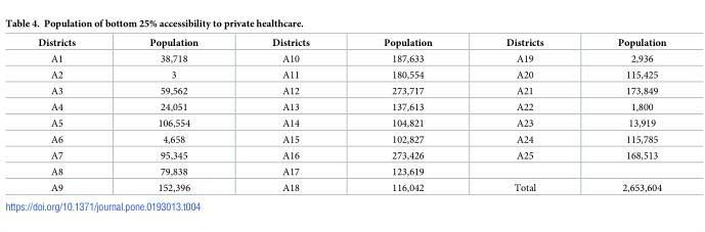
<table><thead><tr><td>Districts</td><td>Population</td><td>Districts</td><td>Population</td><td>Districts</td><td>Population</td></tr></thead><tbody><tr><td>A1</td><td>38,718</td><td>A10</td><td>187,633</td><td>A19</td><td>2,936</td></tr><tr><td>A2</td><td>3</td><td>A11</td><td>180,554</td><td>A20</td><td>115,425</td></tr><tr><td>A3</td><td>59,562</td><td>A12</td><td>273,717</td><td>A21</td><td>173,849</td></tr><tr><td>A4</td><td>24,051</td><td>A13</td><td>137,613</td><td>A22</td><td>1,800</td></tr><tr><td>A5</td><td>106,554</td><td>A14</td><td>104,821</td><td>A23</td><td>13,919</td></tr><tr><td>A6</td><td>4,658</td><td>A15</td><td>102,827</td><td>A24</td><td>115,785</td></tr><tr><td>A7</td><td>95,345</td><td>A16</td><td>273,426</td><td>A25</td><td>168,513</td></tr><tr><td>A8</td><td>79,838</td><td>A17</td><td>123,619</td><td></td><td></td></tr><tr><td>A9</td><td>152,396</td><td>A18</td><td>116,042</td><td>Total</td><td>2,653,604</td></tr></tbody></table>